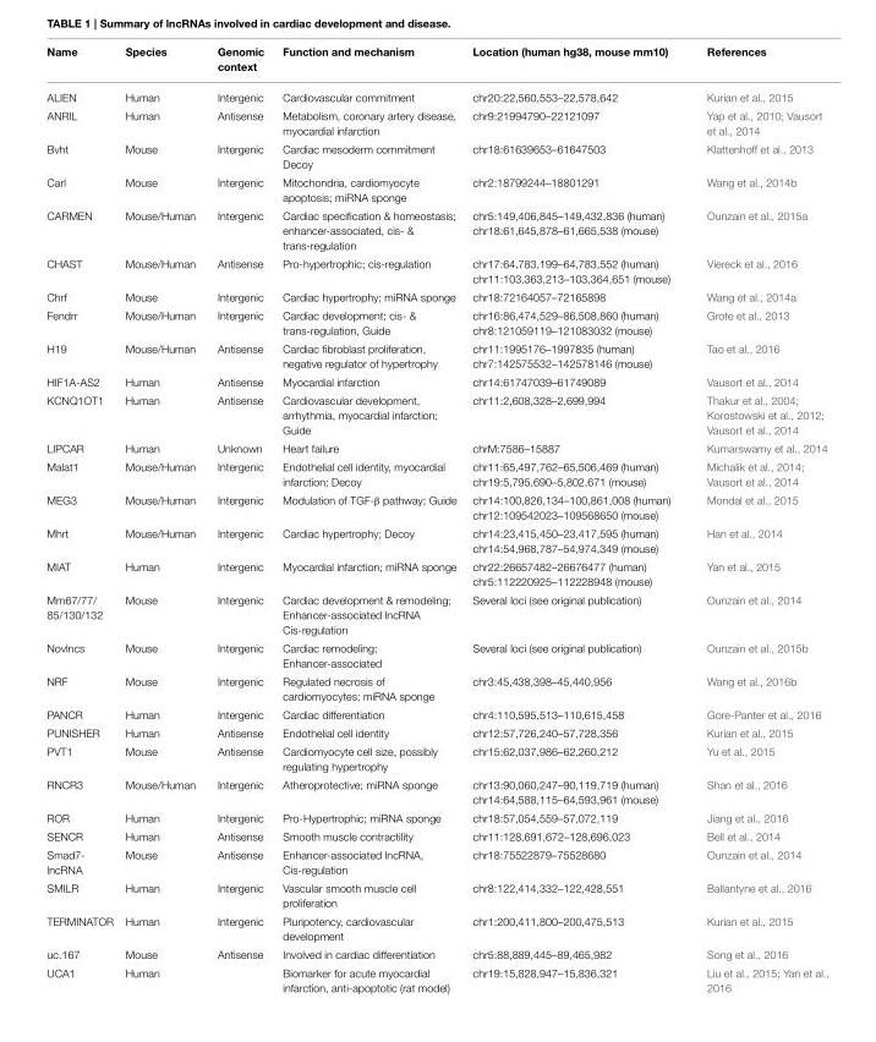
<table><thead><tr><td>Name</td><td>Species</td><td>Genomic context</td><td>Function and mechanism</td><td>Location (human hg38, mouse mm10)</td><td>References</td></tr></thead><tbody><tr><td>ALIEN</td><td>Human</td><td>Intergenic</td><td>Cardiovascular commitment</td><td>chr20:22,560,553–22,578,642</td><td>Kurian et al., 2015</td></tr><tr><td>ANRIL</td><td>Human</td><td>Antisense</td><td>Metabolism, coronary artery disease, myocardial infarction</td><td>chr9:21994790–22121097</td><td>Yap et al., 2010; Vausort et al., 2014</td></tr><tr><td>Bvht</td><td>Mouse</td><td>Intergenic</td><td>Cardiac mesoderm commitment Decoy</td><td>chr18:61639653–61647503</td><td>Klattenhoff et al., 2013</td></tr><tr><td>Carl</td><td>Mouse</td><td>Intergenic</td><td>Mitochondria, cardiomyocyte apoptosis; miRNA sponge</td><td>chr2:18799244–18801291</td><td>Wang et al., 2014b</td></tr><tr><td>CARMEN</td><td>Mouse/Human</td><td>Intergenic</td><td>Cardiac specification &amp; homeostasis; enhancer-associated, cis- &amp; trans-regulation</td><td>chr5:149,406,845–149,432,836 (human) chr18:61,645,878–61,665,538 (mouse)</td><td>Ounzain et al., 2015a</td></tr><tr><td>CHAST</td><td>Mouse/Human</td><td>Antisense</td><td>Pro-hypertrophic; cis-regulation</td><td>chr17:64,783,199–64,783,552 (human) chr11:103,363,213–103,364,651 (mouse)</td><td>Viereck et al., 2016</td></tr><tr><td>Chrf</td><td>Mouse</td><td>Intergenic</td><td>Cardiac hypertrophy; miRNA sponge</td><td>chr18:72164057–72165898</td><td>Wang et al., 2014a</td></tr><tr><td>Fendrr</td><td>Mouse/Human</td><td>Intergenic</td><td>Cardiac development; cis- &amp; trans-regulation, Guide</td><td>chr16:86,474,529–86,508,860 (human) chr8:121059119–121083032 (mouse)</td><td>Grote et al., 2013</td></tr><tr><td>H19</td><td>Mouse/Human</td><td>Antisense</td><td>Cardiac fibroblast proliferation, negative regulator of hypertrophy</td><td>chr11:1995176–1997835 (human) chr7:142575532–142578146 (mouse)</td><td>Tao et al., 2016</td></tr><tr><td>HIF1A-AS2</td><td>Human</td><td>Antisense</td><td>Myocardial infarction</td><td>chr14:61747039–61749089</td><td>Vausort et al., 2014</td></tr><tr><td>KCNQ1OT1</td><td>Human</td><td>Antisense</td><td>Cardiovascular development, arrhythmia, myocardial infarction; Guide</td><td>chr11:2,608,328–2,699,994</td><td>Thakur et al., 2004; Korostowski et al., 2012; Vausort et al., 2014</td></tr><tr><td>LIPCAR</td><td>Human</td><td>Unknown</td><td>Heart failure</td><td>chrM:7586–15887</td><td>Kumarswamy et al., 2014</td></tr><tr><td>Malat1</td><td>Mouse/Human</td><td>Intergenic</td><td>Endothelial cell identity, myocardial infarction; Decoy</td><td>chr11:65,497,762–65,506,469 (human) chr19:5,795,690–5,802,671 (mouse)</td><td>Michalik et al., 2014; Vausort et al., 2014</td></tr><tr><td>MEG3</td><td>Mouse/Human</td><td>Intergenic</td><td>Modulation of TGF-β pathway; Guide</td><td>chr14:100,826,134–100,861,008 (human) chr12:109542023–109568650 (mouse)</td><td>Mondal et al., 2015</td></tr><tr><td>Mhrt</td><td>Mouse/Human</td><td>Intergenic</td><td>Cardiac hypertrophy; Decoy</td><td>chr14:23,415,450–23,417,595 (human) chr14:54,968,787–54,974,349 (mouse)</td><td>Han et al., 2014</td></tr><tr><td>MIAT</td><td>Human</td><td>Intergenic</td><td>Myocardial infarction; miRNA sponge</td><td>chr22:26657482–26676477 (human) chr5:112220925–112228948 (mouse)</td><td>Yan et al., 2015</td></tr><tr><td>Mm67/77/ 85/130/132</td><td>Mouse</td><td>Intergenic</td><td>Cardiac development &amp; remodeling; Enhancer-associated lncRNA Cis-regulation</td><td>Several loci (see original publication)</td><td>Ounzain et al., 2014</td></tr><tr><td>Novlncs</td><td>Mouse</td><td>Intergenic</td><td>Cardiac remodeling; Enhancer-associated</td><td>Several loci (see original publication)</td><td>Ounzain et al., 2015b</td></tr><tr><td>NRF</td><td>Mouse</td><td>Intergenic</td><td>Regulated necrosis of cardiomyocytes; miRNA sponge</td><td>chr3:45,438,398–45,440,956</td><td>Wang et al., 2016b</td></tr><tr><td>PANCR</td><td>Human</td><td>Intergenic</td><td>Cardiac differentiation</td><td>chr4:110,595,513–110,615,458</td><td>Gore-Panter et al., 2016</td></tr><tr><td>PUNISHER</td><td>Human</td><td>Antisense</td><td>Endothelial cell identity</td><td>chr12:57,726,240–57,728,356</td><td>Kurian et al., 2015</td></tr><tr><td>PVT1</td><td>Mouse</td><td>Antisense</td><td>Cardiomyocyte cell size, possibly regulating hypertrophy</td><td>chr15:62,037,986–62,260,212</td><td>Yu et al., 2015</td></tr><tr><td>RNCR3</td><td>Mouse/Human</td><td>Intergenic</td><td>Atheroprotective; miRNA sponge</td><td>chr13:90,060,247–90,119,719 (human) chr14:64,588,115–64,593,961 (mouse)</td><td>Shan et al., 2016</td></tr><tr><td>ROR</td><td>Human</td><td>Intergenic</td><td>Pro-Hypertrophic; miRNA sponge</td><td>chr18:57,054,559–57,072,119</td><td>Jiang et al., 2016</td></tr><tr><td>SENCR</td><td>Human</td><td>Antisense</td><td>Smooth muscle contractility</td><td>chr11:128,691,672–128,696,023</td><td>Bell et al., 2014</td></tr><tr><td>Smad7- lncRNA</td><td>Mouse</td><td>Antisense</td><td>Enhancer-associated lncRNA, Cis-regulation</td><td>chr18:75522879–75528680</td><td>Ounzain et al., 2014</td></tr><tr><td>SMILR</td><td>Human</td><td>Intergenic</td><td>Vascular smooth muscle cell proliferation</td><td>chr8:122,414,332–122,428,551</td><td>Ballantyne et al., 2016</td></tr><tr><td>TERMINATOR</td><td>Human</td><td>Intergenic</td><td>Pluripotency, cardiovascular development</td><td>chr1:200,411,800–200,475,513</td><td>Kurian et al., 2015</td></tr><tr><td>uc.167</td><td>Mouse</td><td>Antisense</td><td>Involved in cardiac differentiation</td><td>chr5:88,889,445–89,465,982</td><td>Song et al., 2016</td></tr><tr><td>UCA1</td><td>Human</td><td></td><td>Biomarker for acute myocardial infarction, anti-apoptotic (rat model)</td><td>chr19:15,828,947–15,836,321</td><td>Liu et al., 2015; Yan et al., 2016</td></tr></tbody></table>